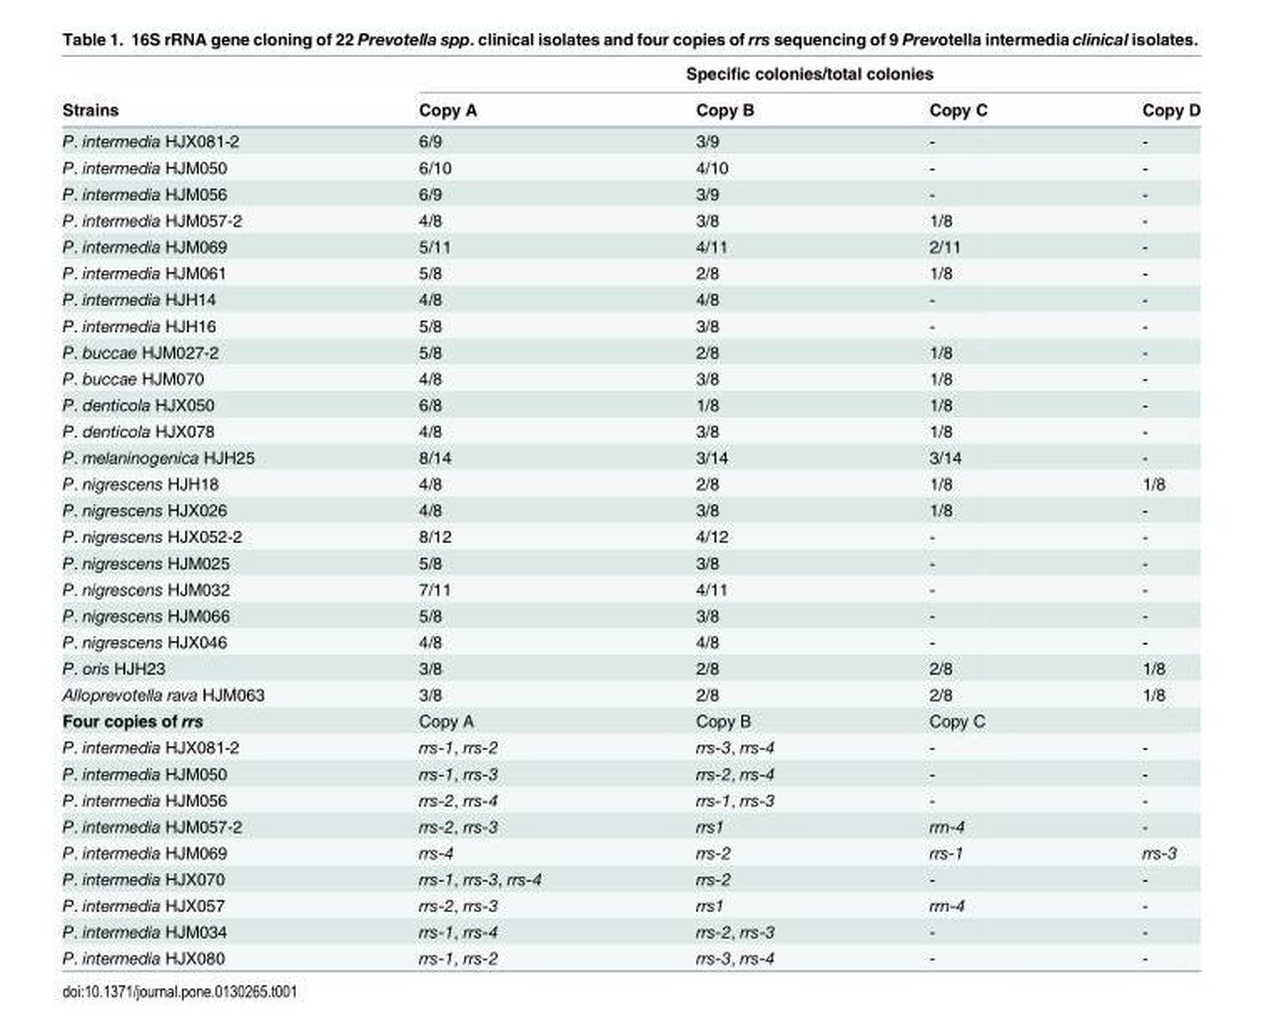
<table><thead><tr><td rowspan="2">Strains</td><td colspan="4">Specific colonies/total colonies</td></tr><tr><td>Copy A</td><td>Copy B</td><td>Copy C</td><td>Copy D</td></tr></thead><tbody><tr><td>P. intermedia HJX081-2</td><td>6/9</td><td>3/9</td><td>-</td><td>-</td></tr><tr><td>P. intermedia HJM050</td><td>6/10</td><td>4/10</td><td>-</td><td>-</td></tr><tr><td>P. intermedia HJM056</td><td>6/9</td><td>3/9</td><td>-</td><td>-</td></tr><tr><td>P. intermedia HJM057-2</td><td>4/8</td><td>3/8</td><td>1/8</td><td>-</td></tr><tr><td>P. intermedia HJM069</td><td>5/11</td><td>4/11</td><td>2/11</td><td>-</td></tr><tr><td>P. intermedia HJM061</td><td>5/8</td><td>2/8</td><td>1/8</td><td>-</td></tr><tr><td>P. intermedia HJH14</td><td>4/8</td><td>4/8</td><td>-</td><td>-</td></tr><tr><td>P. intermedia HJH16</td><td>5/8</td><td>3/8</td><td>-</td><td>-</td></tr><tr><td>P. buccae HJM027-2</td><td>5/8</td><td>2/8</td><td>1/8</td><td>-</td></tr><tr><td>P. buccae HJM070</td><td>4/8</td><td>3/8</td><td>1/8</td><td>-</td></tr><tr><td>P. denticola HJX050</td><td>6/8</td><td>1/8</td><td>1/8</td><td>-</td></tr><tr><td>P. denticola HJX078</td><td>4/8</td><td>3/8</td><td>1/8</td><td>-</td></tr><tr><td>P. melaninogenica HJH25</td><td>8/14</td><td>3/14</td><td>3/14</td><td>-</td></tr><tr><td>P. nigrescens HJH18</td><td>4/8</td><td>2/8</td><td>1/8</td><td>1/8</td></tr><tr><td>P. nigrescens HJX026</td><td>4/8</td><td>3/8</td><td>1/8</td><td>-</td></tr><tr><td>P. nigrescens HJX052-2</td><td>8/12</td><td>4/12</td><td>-</td><td>-</td></tr><tr><td>P. nigrescens HJM025</td><td>5/8</td><td>3/8</td><td>-</td><td>-</td></tr><tr><td>P. nigrescens HJM032</td><td>7/11</td><td>4/11</td><td>-</td><td>-</td></tr><tr><td>P. nigrescens HJM066</td><td>5/8</td><td>3/8</td><td>-</td><td>-</td></tr><tr><td>P. nigrescens HJX046</td><td>4/8</td><td>4/8</td><td>-</td><td>-</td></tr><tr><td>P. oris HJH23</td><td>3/8</td><td>2/8</td><td>2/8</td><td>1/8</td></tr><tr><td>Alloprevotella rava HJM063</td><td>3/8</td><td>2/8</td><td>2/8</td><td>1/8</td></tr><tr><td>Four copies of rrs</td><td>Copy A</td><td>Copy B</td><td>Copy C</td><td></td></tr><tr><td>P. intermedia HJX081-2</td><td>rrs-1, rrs-2</td><td>rrs-3, rrs-4</td><td>-</td><td>-</td></tr><tr><td>P. intermedia HJM050</td><td>rrs-1, rrs-3</td><td>rrs-2, rrs-4</td><td>-</td><td>-</td></tr><tr><td>P. intermedia HJM056</td><td>rrs-2, rrs-4</td><td>rrs-1, rrs-3</td><td>-</td><td>-</td></tr><tr><td>P. intermedia HJM057-2</td><td>rrs-2, rrs-3</td><td>rrs1</td><td>rrn-4</td><td>-</td></tr><tr><td>P. intermedia HJM069</td><td>rrs-4</td><td>rrs-2</td><td>rrs-1</td><td>rrs-3</td></tr><tr><td>P. intermedia HJX070</td><td>rrs-1, rrs-3, rrs-4</td><td>rrs-2</td><td>-</td><td>-</td></tr><tr><td>P. intermedia HJX057</td><td>rrs-2, rrs-3</td><td>rrs1</td><td>rrn-4</td><td>-</td></tr><tr><td>P. intermedia HJM034</td><td>rrs-1, rrs-4</td><td>rrs-2, rrs-3</td><td>-</td><td>-</td></tr><tr><td>P. intermedia HJX080</td><td>rrs-1, rrs-2</td><td>rrs-3, rrs-4</td><td>-</td><td>-</td></tr></tbody></table>